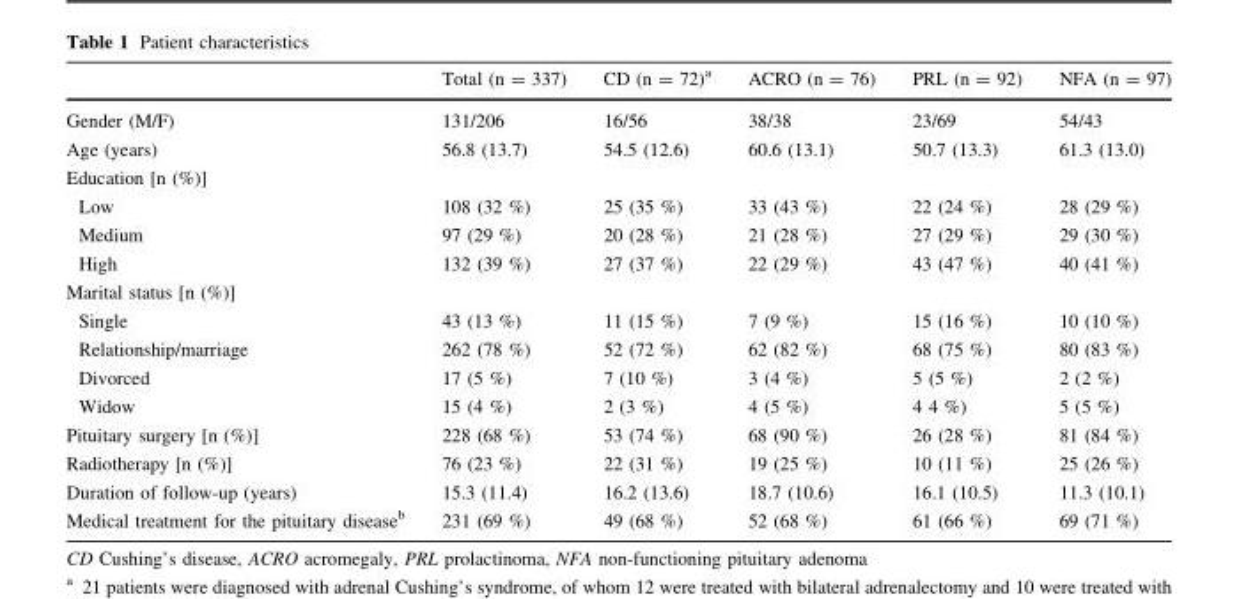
<table><thead><tr><td></td><td>Total (n = 337)</td><td>CD (n = 72)<sup>a</sup></td><td>ACRO (n = 76)</td><td>PRL (n = 92)</td><td>NFA (n = 97)</td></tr></thead><tbody><tr><td>Gender (M/F)</td><td>131/206</td><td>16/56</td><td>38/38</td><td>23/69</td><td>54/43</td></tr><tr><td>Age (years)</td><td>56.8 (13.7)</td><td>54.5 (12.6)</td><td>60.6 (13.1)</td><td>50.7 (13.3)</td><td>61.3 (13.0)</td></tr><tr><td colspan="6">Education [n (%)]</td></tr><tr><td>Low</td><td>108 (32 %)</td><td>25 (35 %)</td><td>33 (43 %)</td><td>22 (24 %)</td><td>28 (29 %)</td></tr><tr><td>Medium</td><td>97 (29 %)</td><td>20 (28 %)</td><td>21 (28 %)</td><td>27 (29 %)</td><td>29 (30 %)</td></tr><tr><td>High</td><td>132 (39 %)</td><td>27 (37 %)</td><td>22 (29 %)</td><td>43 (47 %)</td><td>40 (41 %)</td></tr><tr><td colspan="6">Marital status [n (%)]</td></tr><tr><td>Single</td><td>43 (13 %)</td><td>11 (15 %)</td><td>7 (9 %)</td><td>15 (16 %)</td><td>10 (10 %)</td></tr><tr><td>Relationship/marriage</td><td>262 (78 %)</td><td>52 (72 %)</td><td>62 (82 %)</td><td>68 (75 %)</td><td>80 (83 %)</td></tr><tr><td>Divorced</td><td>17 (5 %)</td><td>7 (10 %)</td><td>3 (4 %)</td><td>5 (5 %)</td><td>2 (2 %)</td></tr><tr><td>Widow</td><td>15 (4 %)</td><td>2 (3 %)</td><td>4 (5 %)</td><td>4 4 %)</td><td>5 (5 %)</td></tr><tr><td>Pituitary surgery [n (%)]</td><td>228 (68 %)</td><td>53 (74 %)</td><td>68 (90 %)</td><td>26 (28 %)</td><td>81 (84 %)</td></tr><tr><td>Radiotherapy [n (%)]</td><td>76 (23 %)</td><td>22 (31 %)</td><td>19 (25 %)</td><td>10 (11 %)</td><td>25 (26 %)</td></tr><tr><td>Duration of follow-up (years)</td><td>15.3 (11.4)</td><td>16.2 (13.6)</td><td>18.7 (10.6)</td><td>16.1 (10.5)</td><td>11.3 (10.1)</td></tr><tr><td>Medical treatment for the pituitary disease<sup>b</sup></td><td>231 (69 %)</td><td>49 (68 %)</td><td>52 (68 %)</td><td>61 (66 %)</td><td>69 (71 %)</td></tr></tbody></table>